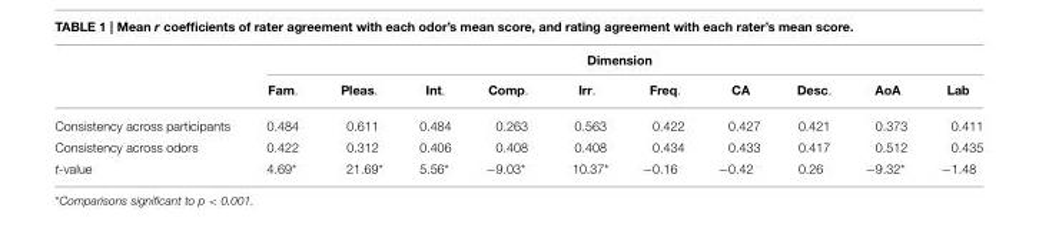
<table><thead><tr><td rowspan="2"></td><td colspan="10">Dimension</td></tr><tr><td>Fam.</td><td>Pleas.</td><td>Int.</td><td>Comp.</td><td>Irr.</td><td>Freq.</td><td>CA</td><td>Desc.</td><td>AoA</td><td>Lab</td></tr></thead><tbody><tr><td>Consistency across participants</td><td>0.484</td><td>0.611</td><td>0.484</td><td>0.263</td><td>0.563</td><td>0.422</td><td>0.427</td><td>0.421</td><td>0.373</td><td>0.411</td></tr><tr><td>Consistency across odors</td><td>0.422</td><td>0.312</td><td>0.406</td><td>0.408</td><td>0.408</td><td>0.434</td><td>0.433</td><td>0.417</td><td>0.512</td><td>0.435</td></tr><tr><td>t-value</td><td>4.69*</td><td>21.69*</td><td>5.56*</td><td>−9.03*</td><td>10.37*</td><td>−0.16</td><td>−0.42</td><td>0.26</td><td>−9.32*</td><td>−1.48</td></tr></tbody></table>